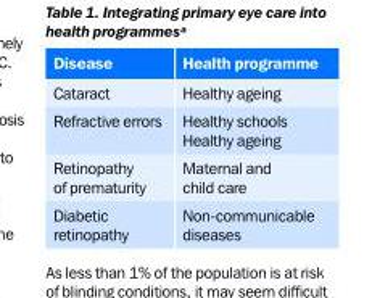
<table><thead><tr><td>Disease</td><td>Health programme</td></tr></thead><tbody><tr><td>Cataract</td><td>Healthy ageing</td></tr><tr><td>Refractive errors</td><td>Healthy schools Healthy ageing</td></tr><tr><td>Retinopathy of prematurity</td><td>Maternal and child care</td></tr><tr><td>Diabetic retinopathy</td><td>Non-communicable diseases</td></tr></tbody></table>